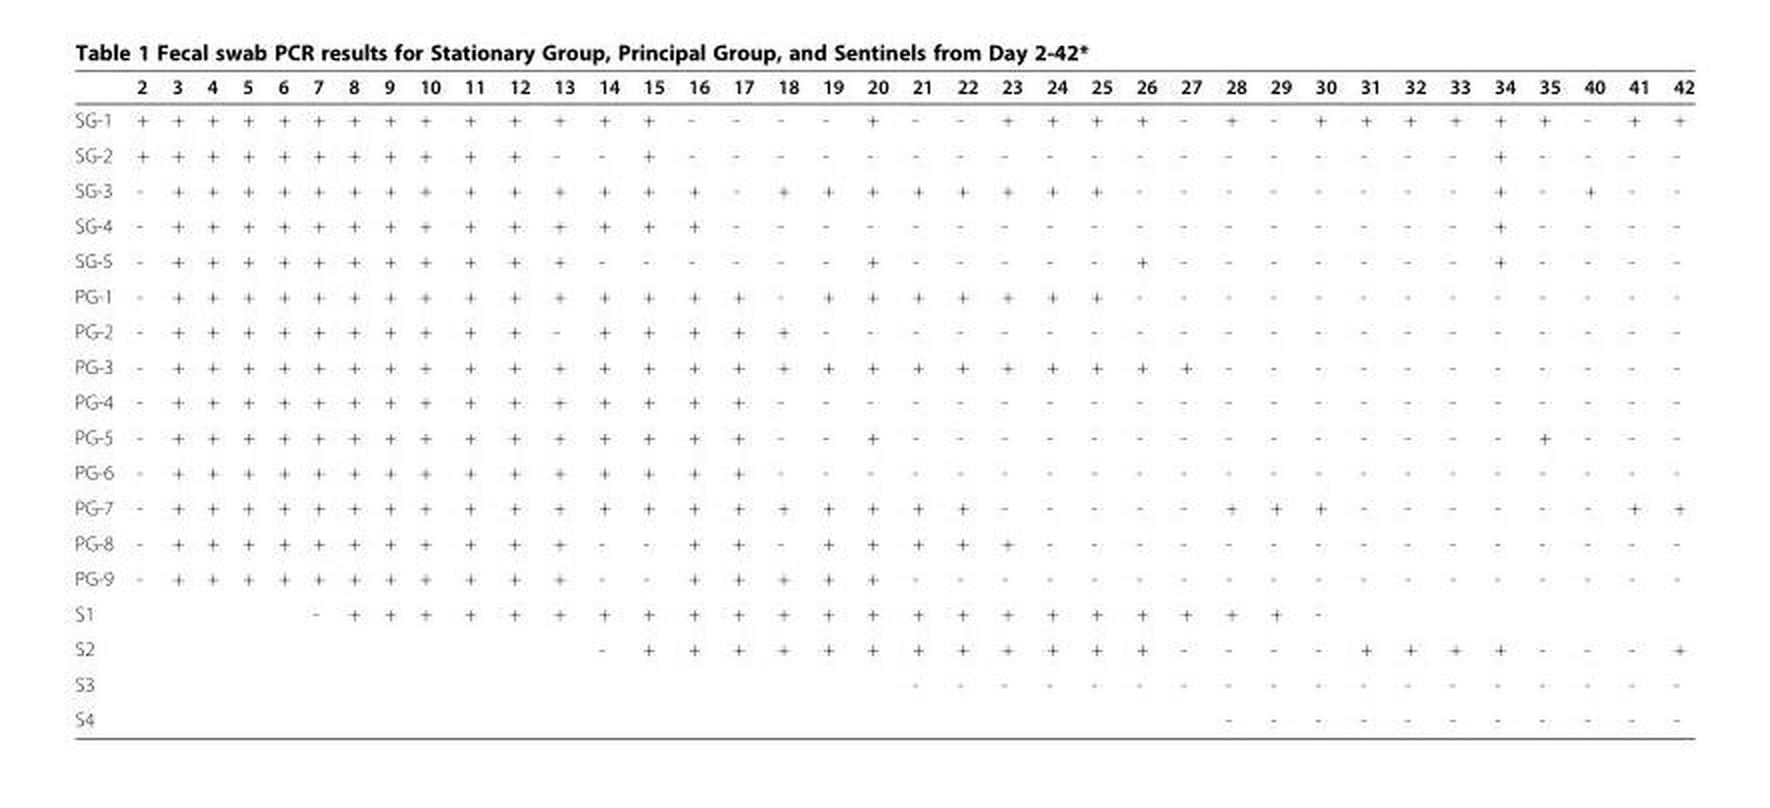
<table><thead><tr><td></td><td>2</td><td>3</td><td>4</td><td>5</td><td>6</td><td>7</td><td>8</td><td>9</td><td>10</td><td>11</td><td>12</td><td>13</td><td>14</td><td>15</td><td>16</td><td>17</td><td>18</td><td>19</td><td>20</td><td>21</td><td>22</td><td>23</td><td>24</td><td>25</td><td>26</td><td>27</td><td>28</td><td>29</td><td>30</td><td>31</td><td>32</td><td>33</td><td>34</td><td>35</td><td>40</td><td>41</td><td>42</td></tr></thead><tbody><tr><td>SG-1</td><td>+</td><td>+</td><td>+</td><td>+</td><td>+</td><td>+</td><td>+</td><td>+</td><td>+</td><td>+</td><td>+</td><td>+</td><td>+</td><td>+</td><td>-</td><td>-</td><td>-</td><td>-</td><td>+</td><td>-</td><td>-</td><td>+</td><td>+</td><td>+</td><td>+</td><td>-</td><td>+</td><td>-</td><td>+</td><td>+</td><td>+</td><td>+</td><td>+</td><td>+</td><td>-</td><td>+</td><td>+</td></tr><tr><td>SG-2</td><td>+</td><td>+</td><td>+</td><td>+</td><td>+</td><td>+</td><td>+</td><td>+</td><td>+</td><td>+</td><td>+</td><td>-</td><td>-</td><td>+</td><td>-</td><td>-</td><td>-</td><td>-</td><td>-</td><td>-</td><td>-</td><td>-</td><td>-</td><td>-</td><td>-</td><td>-</td><td>-</td><td>-</td><td>-</td><td>-</td><td>-</td><td>-</td><td>+</td><td>-</td><td>-</td><td>-</td><td>-</td></tr><tr><td>SG-3</td><td>-</td><td>+</td><td>+</td><td>+</td><td>+</td><td>+</td><td>+</td><td>+</td><td>+</td><td>+</td><td>+</td><td>+</td><td>+</td><td>+</td><td>+</td><td>-</td><td>+</td><td>+</td><td>+</td><td>+</td><td>+</td><td>+</td><td>+</td><td>+</td><td>-</td><td>-</td><td>-</td><td>-</td><td>-</td><td>-</td><td>-</td><td>-</td><td>+</td><td>-</td><td>+</td><td>-</td><td>-</td></tr><tr><td>SG-4</td><td>-</td><td>+</td><td>+</td><td>+</td><td>+</td><td>+</td><td>+</td><td>+</td><td>+</td><td>+</td><td>+</td><td>+</td><td>+</td><td>+</td><td>+</td><td>-</td><td>-</td><td>-</td><td>-</td><td>-</td><td>-</td><td>-</td><td>-</td><td>-</td><td>-</td><td>-</td><td>-</td><td>-</td><td>-</td><td>-</td><td>-</td><td>-</td><td>+</td><td>-</td><td>-</td><td>-</td><td>-</td></tr><tr><td>SG-5</td><td>-</td><td>+</td><td>+</td><td>+</td><td>+</td><td>+</td><td>+</td><td>+</td><td>+</td><td>+</td><td>+</td><td>+</td><td>-</td><td>-</td><td>-</td><td>-</td><td>-</td><td>-</td><td>+</td><td>-</td><td>-</td><td>-</td><td>-</td><td>-</td><td>+</td><td>-</td><td>-</td><td>-</td><td>-</td><td>-</td><td>-</td><td>-</td><td>+</td><td>-</td><td>-</td><td>-</td><td>-</td></tr><tr><td>PG-1</td><td>-</td><td>+</td><td>+</td><td>+</td><td>+</td><td>+</td><td>+</td><td>+</td><td>+</td><td>+</td><td>+</td><td>+</td><td>+</td><td>+</td><td>+</td><td>+</td><td>-</td><td>+</td><td>+</td><td>+</td><td>+</td><td>+</td><td>+</td><td>+</td><td>-</td><td>-</td><td>-</td><td>-</td><td>-</td><td>-</td><td>-</td><td>-</td><td>-</td><td>-</td><td>-</td><td>-</td><td>-</td></tr><tr><td>PG-2</td><td>-</td><td>+</td><td>+</td><td>+</td><td>+</td><td>+</td><td>+</td><td>+</td><td>+</td><td>+</td><td>+</td><td>-</td><td>+</td><td>+</td><td>+</td><td>+</td><td>+</td><td>-</td><td>-</td><td>-</td><td>-</td><td>-</td><td>-</td><td>-</td><td>-</td><td>-</td><td>-</td><td>-</td><td>-</td><td>-</td><td>-</td><td>-</td><td>-</td><td>-</td><td>-</td><td>-</td><td>-</td></tr><tr><td>PG-3</td><td>-</td><td>+</td><td>+</td><td>+</td><td>+</td><td>+</td><td>+</td><td>+</td><td>+</td><td>+</td><td>+</td><td>+</td><td>+</td><td>+</td><td>+</td><td>+</td><td>+</td><td>+</td><td>+</td><td>+</td><td>+</td><td>+</td><td>+</td><td>+</td><td>+</td><td>+</td><td>-</td><td>-</td><td>-</td><td>-</td><td>-</td><td>-</td><td>-</td><td>-</td><td>-</td><td>-</td><td>-</td></tr><tr><td>PG-4</td><td>-</td><td>+</td><td>+</td><td>+</td><td>+</td><td>+</td><td>+</td><td>+</td><td>+</td><td>+</td><td>+</td><td>+</td><td>+</td><td>+</td><td>+</td><td>+</td><td>-</td><td>-</td><td>-</td><td>-</td><td>-</td><td>-</td><td>-</td><td>-</td><td>-</td><td>-</td><td>-</td><td>-</td><td>-</td><td>-</td><td>-</td><td>-</td><td>-</td><td>-</td><td>-</td><td>-</td><td>-</td></tr><tr><td>PG-5</td><td>-</td><td>+</td><td>+</td><td>+</td><td>+</td><td>+</td><td>+</td><td>+</td><td>+</td><td>+</td><td>+</td><td>+</td><td>+</td><td>+</td><td>+</td><td>+</td><td>-</td><td>-</td><td>+</td><td>-</td><td>-</td><td>-</td><td>-</td><td>-</td><td>-</td><td>-</td><td>-</td><td>-</td><td>-</td><td>-</td><td>-</td><td>-</td><td>-</td><td>+</td><td>-</td><td>-</td><td>-</td></tr><tr><td>PG-6</td><td>-</td><td>+</td><td>+</td><td>+</td><td>+</td><td>+</td><td>+</td><td>+</td><td>+</td><td>+</td><td>+</td><td>+</td><td>+</td><td>+</td><td>+</td><td>+</td><td>-</td><td>-</td><td>-</td><td>-</td><td>-</td><td>-</td><td>-</td><td>-</td><td>-</td><td>-</td><td>-</td><td>-</td><td>-</td><td>-</td><td>-</td><td>-</td><td>-</td><td>-</td><td>-</td><td>-</td><td>-</td></tr><tr><td>PG-7</td><td>-</td><td>+</td><td>+</td><td>+</td><td>+</td><td>+</td><td>+</td><td>+</td><td>+</td><td>+</td><td>+</td><td>+</td><td>+</td><td>+</td><td>+</td><td>+</td><td>+</td><td>+</td><td>+</td><td>+</td><td>+</td><td>-</td><td>-</td><td>-</td><td>-</td><td>-</td><td>+</td><td>+</td><td>+</td><td>-</td><td>-</td><td>-</td><td>-</td><td>-</td><td>-</td><td>+</td><td>+</td></tr><tr><td>PG-8</td><td>-</td><td>+</td><td>+</td><td>+</td><td>+</td><td>+</td><td>+</td><td>+</td><td>+</td><td>+</td><td>+</td><td>+</td><td>-</td><td>-</td><td>+</td><td>+</td><td>-</td><td>+</td><td>+</td><td>+</td><td>+</td><td>+</td><td>-</td><td>-</td><td>-</td><td>-</td><td>-</td><td>-</td><td>-</td><td>-</td><td>-</td><td>-</td><td>-</td><td>-</td><td>-</td><td>-</td><td>-</td></tr><tr><td>PG-9</td><td>-</td><td>+</td><td>+</td><td>+</td><td>+</td><td>+</td><td>+</td><td>+</td><td>+</td><td>+</td><td>+</td><td>+</td><td>-</td><td>-</td><td>+</td><td>+</td><td>+</td><td>+</td><td>+</td><td>-</td><td>-</td><td>-</td><td>-</td><td>-</td><td>-</td><td>-</td><td>-</td><td>-</td><td>-</td><td>-</td><td>-</td><td>-</td><td>-</td><td>-</td><td>-</td><td>-</td><td>-</td></tr><tr><td>S1</td><td></td><td></td><td></td><td></td><td></td><td>-</td><td>+</td><td>+</td><td>+</td><td>+</td><td>+</td><td>+</td><td>+</td><td>+</td><td>+</td><td>+</td><td>+</td><td>+</td><td>+</td><td>+</td><td>+</td><td>+</td><td>+</td><td>+</td><td>+</td><td>+</td><td>+</td><td>+</td><td>-</td><td></td><td></td><td></td><td></td><td></td><td></td><td></td><td></td></tr><tr><td>S2</td><td></td><td></td><td></td><td></td><td></td><td></td><td></td><td></td><td></td><td></td><td></td><td></td><td>-</td><td>+</td><td>+</td><td>+</td><td>+</td><td>+</td><td>+</td><td>+</td><td>+</td><td>+</td><td>+</td><td>+</td><td>+</td><td>-</td><td>-</td><td>-</td><td>-</td><td>+</td><td>+</td><td>+</td><td>+</td><td>-</td><td>-</td><td>-</td><td>+</td></tr><tr><td>S3</td><td></td><td></td><td></td><td></td><td></td><td></td><td></td><td></td><td></td><td></td><td></td><td></td><td></td><td></td><td></td><td></td><td></td><td></td><td></td><td>-</td><td>-</td><td>-</td><td>-</td><td>-</td><td>-</td><td>-</td><td>-</td><td>-</td><td>-</td><td>-</td><td>-</td><td>-</td><td>-</td><td>-</td><td>-</td><td>-</td><td>-</td></tr><tr><td>S4</td><td></td><td></td><td></td><td></td><td></td><td></td><td></td><td></td><td></td><td></td><td></td><td></td><td></td><td></td><td></td><td></td><td></td><td></td><td></td><td></td><td></td><td></td><td></td><td></td><td></td><td></td><td>-</td><td>-</td><td>-</td><td>-</td><td>-</td><td>-</td><td>-</td><td>-</td><td>-</td><td>-</td><td>-</td></tr></tbody></table>